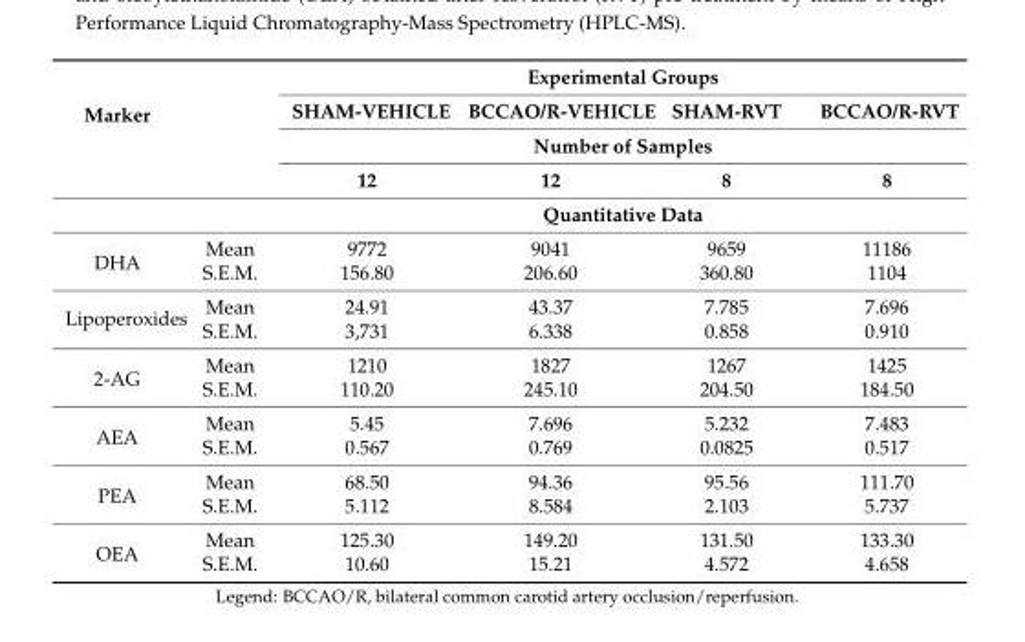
<table><thead><tr><td rowspan="4">Marker</td><td rowspan="4"></td><td colspan="4">Experimental Groups</td></tr><tr><td>SHAM-VEHICLE</td><td>BCCAO/R-VEHICLE</td><td>SHAM-RVT</td><td>BCCAO/R-RVT</td></tr><tr><td colspan="4">Number of Samples</td></tr><tr><td>12</td><td>12</td><td>8</td><td>8</td></tr></thead><tbody><tr><td></td><td></td><td colspan="4">Quantitative Data</td></tr><tr><td rowspan="2">DHA</td><td>Mean</td><td>9772</td><td>9041</td><td>9659</td><td>11186</td></tr><tr><td>S.E.M.</td><td>156.80</td><td>206.60</td><td>360.80</td><td>1104</td></tr><tr><td rowspan="2">Lipoperoxides</td><td>Mean</td><td>24.91</td><td>43.37</td><td>7.785</td><td>7.696</td></tr><tr><td>S.E.M.</td><td>3,731</td><td>6.338</td><td>0.858</td><td>0.910</td></tr><tr><td rowspan="2">2-AG</td><td>Mean</td><td>1210</td><td>1827</td><td>1267</td><td>1425</td></tr><tr><td>S.E.M.</td><td>110.20</td><td>245.10</td><td>204.50</td><td>184.50</td></tr><tr><td rowspan="2">AEA</td><td>Mean</td><td>5.45</td><td>7.696</td><td>5.232</td><td>7.483</td></tr><tr><td>S.E.M.</td><td>0.567</td><td>0.769</td><td>0.0825</td><td>0.517</td></tr><tr><td rowspan="2">PEA</td><td>Mean</td><td>68.50</td><td>94.36</td><td>95.56</td><td>111.70</td></tr><tr><td>S.E.M.</td><td>5.112</td><td>8.584</td><td>2.103</td><td>5.737</td></tr><tr><td rowspan="2">OEA</td><td>Mean</td><td>125.30</td><td>149.20</td><td>131.50</td><td>133.30</td></tr><tr><td>S.E.M.</td><td>10.60</td><td>15.21</td><td>4.572</td><td>4.658</td></tr></tbody></table>